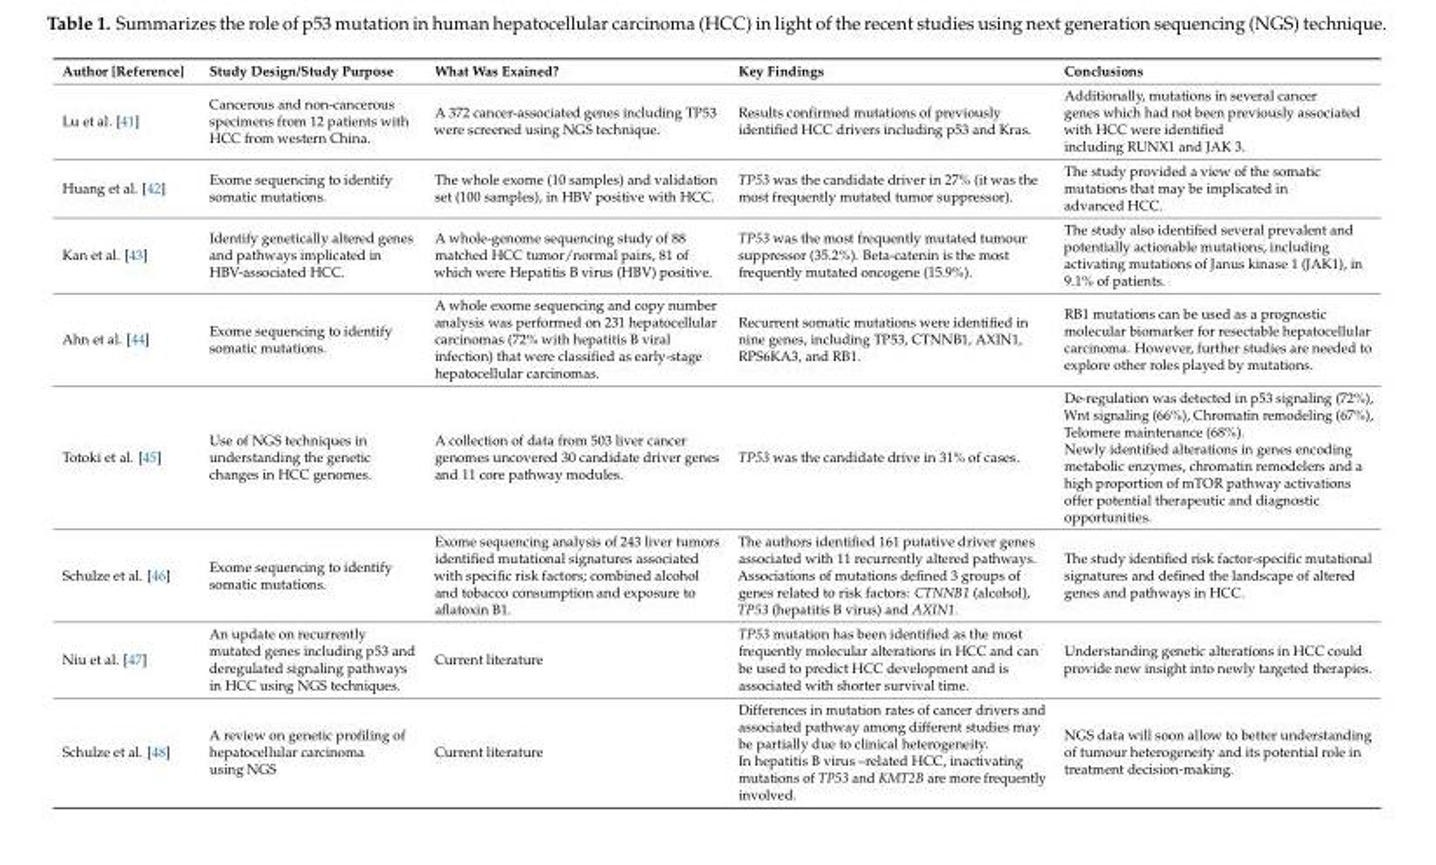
<table><thead><tr><td>Author [Reference]</td><td>Study Design/Study Purpose</td><td>What Was Exained?</td><td>Key Findings</td><td>Conclusions</td></tr></thead><tbody><tr><td>Lu et al. [41]</td><td>Cancerous and non-cancerous specimens from 12 patients with HCC from western China.</td><td>A 372 cancer-associated genes including TP53 were screened using NGS technique.</td><td>Results confirmed mutations of previously identified HCC drivers including p53 and Kras.</td><td>Additionally, mutations in several cancer genes which had not been previously associated with HCC were identified including RUNX1 and JAK 3.</td></tr><tr><td>Huang et al. [42]</td><td>Exome sequencing to identify somatic mutations.</td><td>The whole exome (10 samples) and validation set (100 samples), in HBV positive with HCC.</td><td>TP53 was the candidate driver in 27% (it was the most frequently mutated tumor suppressor).</td><td>The study provided a view of the somatic mutations that may be implicated in advanced HCC.</td></tr><tr><td>Kan et al. [43]</td><td>Identify genetically altered genes and pathways implicated in HBV-associated HCC.</td><td>A whole-genome sequencing study of 88 matched HCC tumor/normal pairs, 81 of which were Hepatitis B virus (HBV) positive.</td><td>TP53 was the most frequently mutated tumour suppressor (35.2%). Beta-catenin is the most frequently mutated oncogene (15.9%).</td><td>The study also identified several prevalent and potentially actionable mutations, including activating mutations of Janus kinase 1 (JAK1), in 9.1% of patients.</td></tr><tr><td>Ahn et al. [44]</td><td>Exome sequencing to identify somatic mutations.</td><td>A whole exome sequencing and copy number analysis was performed on 231 hepatocellular carcinomas (72% with hepatitis B viral infection) that were classified as early-stage hepatocellular carcinomas.</td><td>Recurrent somatic mutations were identified in nine genes, including TP53, CTNNB1, AXIN1, RPS6KA3, and RB1.</td><td>RB1 mutations can be used as a prognostic molecular biomarker for resectable hepatocellular carcinoma. However, further studies are needed to explore other roles played by mutations.</td></tr><tr><td>Totoki et al. [45]</td><td>Use of NGS techniques in understanding the genetic changes in HCC genomes.</td><td>A collection of data from 503 liver cancer genomes uncovered 30 candidate driver genes and 11 core pathway modules.</td><td>TP53 was the candidate drive in 31% of cases.</td><td>De-regulation was detected in p53 signaling (72%), Wnt signaling (66%), Chromatin remodeling (67%), Telomere maintenance (68%). Newly identified alterations in genes encoding metabolic enzymes, chromatin remodelers and a high proportion of mTOR pathway activations offer potential therapeutic and diagnostic opportunities.</td></tr><tr><td>Schulze et al. [46]</td><td>Exome sequencing to identify somatic mutations.</td><td>Exome sequencing analysis of 243 liver tumors identified mutational signatures associated with specific risk factors; combined alcohol and tobacco consumption and exposure to aflatoxin B1.</td><td>The authors identified 161 putative driver genes associated with 11 recurrently altered pathways. Associations of mutations defined 3 groups of genes related to risk factors: CTNNB1 (alcohol), TP53 (hepatitis B virus) and AXIN1.</td><td>The study identified risk factor-specific mutational signatures and defined the landscape of altered genes and pathways in HCC.</td></tr><tr><td>Niu et al. [47]</td><td>An update on recurrently mutated genes including p53 and deregulated signaling pathways in HCC using NGS techniques.</td><td>Current literature</td><td>TP53 mutation has been identified as the most frequently molecular alterations in HCC and can be used to predict HCC development and is associated with shorter survival time.</td><td>Understanding genetic alterations in HCC could provide new insight into newly targeted therapies.</td></tr><tr><td>Schulze et al. [48]</td><td>A review on genetic profiling of hepatocellular carcinoma using NGS</td><td>Current literature</td><td>Differences in mutation rates of cancer drivers and associated pathway among different studies may be partially due to clinical heterogeneity. In hepatitis B virus –related HCC, inactivating mutations of TP53 and KMT2B are more frequently involved.</td><td>NGS data will soon allow to better understanding of tumour heterogeneity and its potential role in treatment decision-making.</td></tr></tbody></table>